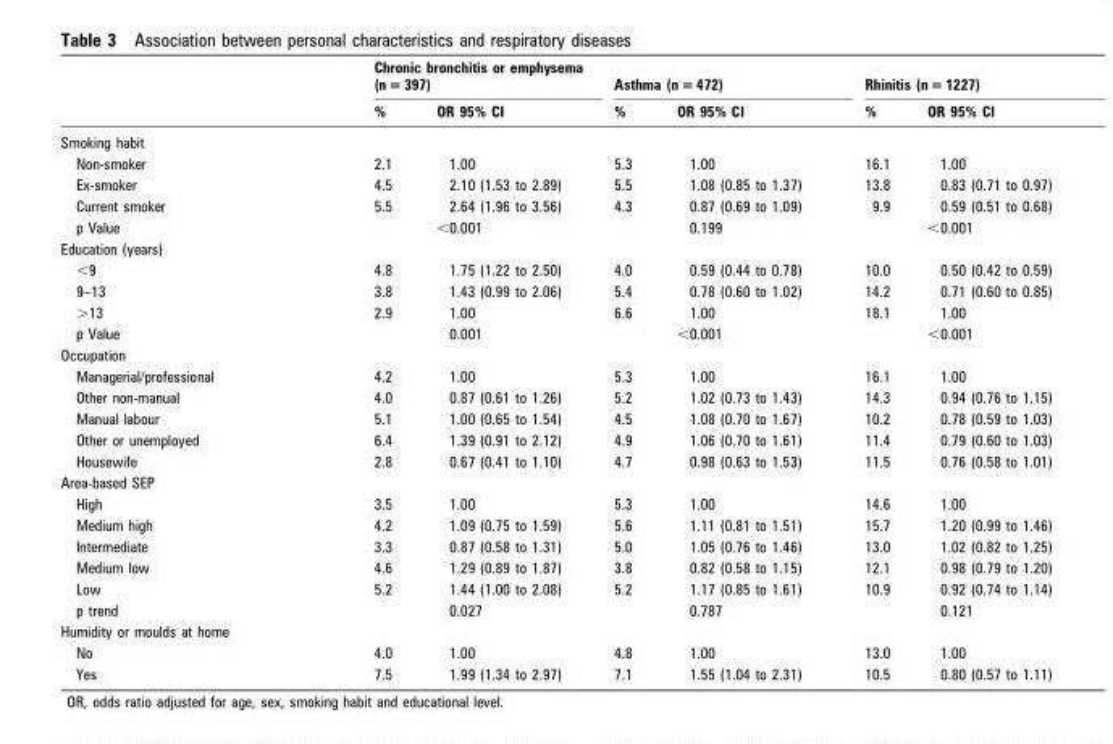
<table><thead><tr><td rowspan="2"></td><td colspan="2">Chronic bronchitis or emphysema (n = 397)</td><td colspan="2">Asthma (n = 472)</td><td colspan="2">Rhinitis (n = 1227)</td></tr><tr><td>%</td><td>OR 95% CI</td><td>%</td><td>OR 95% CI</td><td>%</td><td>OR 95% CI</td></tr></thead><tbody><tr><td colspan="7">Smoking habit</td></tr><tr><td>Non-smoker</td><td>2.1</td><td>1.00</td><td>5.3</td><td>1.00</td><td>16.1</td><td>1.00</td></tr><tr><td>Ex-smoker</td><td>4.5</td><td>2.10 (1.53 to 2.89)</td><td>5.5</td><td>1.08 (0.85 to 1.37)</td><td>13.8</td><td>0.83 (0.71 to 0.97)</td></tr><tr><td>Current smoker</td><td>5.5</td><td>2.64 (1.96 to 3.56)</td><td>4.3</td><td>0.87 (0.69 to 1.09)</td><td>9.9</td><td>0.59 (0.51 to 0.68)</td></tr><tr><td>p Value</td><td></td><td>&lt;0.001</td><td></td><td>0.199</td><td></td><td>&lt;0.001</td></tr><tr><td colspan="7">Education (years)</td></tr><tr><td>&lt;9</td><td>4.8</td><td>1.75 (1.22 to 2.50)</td><td>4.0</td><td>0.59 (0.44 to 0.78)</td><td>10.0</td><td>0.50 (0.42 to 0.59)</td></tr><tr><td>9–13</td><td>3.8</td><td>1.43 (0.99 to 2.06)</td><td>5.4</td><td>0.78 (0.60 to 1.02)</td><td>14.2</td><td>0.71 (0.60 to 0.85)</td></tr><tr><td>&gt;13</td><td>2.9</td><td>1.00</td><td>6.6</td><td>1.00</td><td>18.1</td><td>1.00</td></tr><tr><td>p Value</td><td></td><td>0.001</td><td></td><td>&lt;0.001</td><td></td><td>&lt;0.001</td></tr><tr><td colspan="7">Occupation</td></tr><tr><td>Managerial/professional</td><td>4.2</td><td>1.00</td><td>5.3</td><td>1.00</td><td>16.1</td><td>1.00</td></tr><tr><td>Other non-manual</td><td>4.0</td><td>0.87 (0.61 to 1.26)</td><td>5.2</td><td>1.02 (0.73 to 1.43)</td><td>14.3</td><td>0.94 (0.76 to 1.15)</td></tr><tr><td>Manual labour</td><td>5.1</td><td>1.00 (0.65 to 1.54)</td><td>4.5</td><td>1.08 (0.70 to 1.67)</td><td>10.2</td><td>0.78 (0.59 to 1.03)</td></tr><tr><td>Other or unemployed</td><td>6.4</td><td>1.39 (0.91 to 2.12)</td><td>4.9</td><td>1.06 (0.70 to 1.61)</td><td>11.4</td><td>0.79 (0.60 to 1.03)</td></tr><tr><td>Housewife</td><td>2.8</td><td>0.67 (0.41 to 1.10)</td><td>4.7</td><td>0.98 (0.63 to 1.53)</td><td>11.5</td><td>0.76 (0.58 to 1.01)</td></tr><tr><td colspan="7">Area-based SEP</td></tr><tr><td>High</td><td>3.5</td><td>1.00</td><td>5.3</td><td>1.00</td><td>14.6</td><td>1.00</td></tr><tr><td>Medium high</td><td>4.2</td><td>1.09 (0.75 to 1.59)</td><td>5.6</td><td>1.11 (0.81 to 1.51)</td><td>15.7</td><td>1.20 (0.99 to 1.46)</td></tr><tr><td>Intermediate</td><td>3.3</td><td>0.87 (0.58 to 1.31)</td><td>5.0</td><td>1.05 (0.76 to 1.46)</td><td>13.0</td><td>1.02 (0.82 to 1.25)</td></tr><tr><td>Medium low</td><td>4.6</td><td>1.29 (0.89 to 1.87)</td><td>3.8</td><td>0.82 (0.58 to 1.15)</td><td>12.1</td><td>0.98 (0.79 to 1.20)</td></tr><tr><td>Low</td><td>5.2</td><td>1.44 (1.00 to 2.08)</td><td>5.2</td><td>1.17 (0.85 to 1.61)</td><td>10.9</td><td>0.92 (0.74 to 1.14)</td></tr><tr><td>p trend</td><td></td><td>0.027</td><td></td><td>0.787</td><td></td><td>0.121</td></tr><tr><td colspan="7">Humidity or moulds at home</td></tr><tr><td>No</td><td>4.0</td><td>1.00</td><td>4.8</td><td>1.00</td><td>13.0</td><td>1.00</td></tr><tr><td>Yes</td><td>7.5</td><td>1.99 (1.34 to 2.97)</td><td>7.1</td><td>1.55 (1.04 to 2.31)</td><td>10.5</td><td>0.80 (0.57 to 1.11)</td></tr></tbody></table>